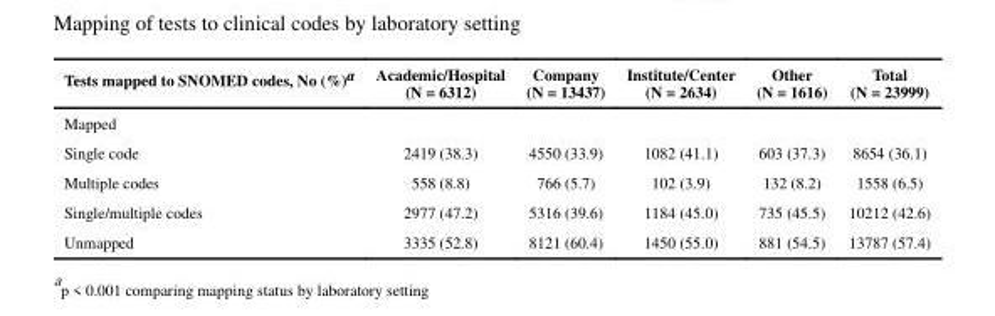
<table><thead><tr><td>Tests mapped to SNOMED codes, No (%)<sup>a</sup></td><td>Academic/Hospital (N = 6312)</td><td>Company (N = 13437)</td><td>Institute/Center (N = 2634)</td><td>Other (N = 1616)</td><td>Total (N = 23999)</td></tr></thead><tbody><tr><td colspan="6">Mapped</td></tr><tr><td>Single code</td><td>2419 (38.3)</td><td>4550 (33.9)</td><td>1082 (41.1)</td><td>603 (37.3)</td><td>8654 (36.1)</td></tr><tr><td>Multiple codes</td><td>558 (8.8)</td><td>766 (5.7)</td><td>102 (3.9)</td><td>132 (8.2)</td><td>1558 (6.5)</td></tr><tr><td>Single/multiple codes</td><td>2977 (47.2)</td><td>5316 (39.6)</td><td>1184 (45.0)</td><td>735 (45.5)</td><td>10212 (42.6)</td></tr><tr><td>Unmapped</td><td>3335 (52.8)</td><td>8121 (60.4)</td><td>1450 (55.0)</td><td>881 (54.5)</td><td>13787 (57.4)</td></tr></tbody></table>